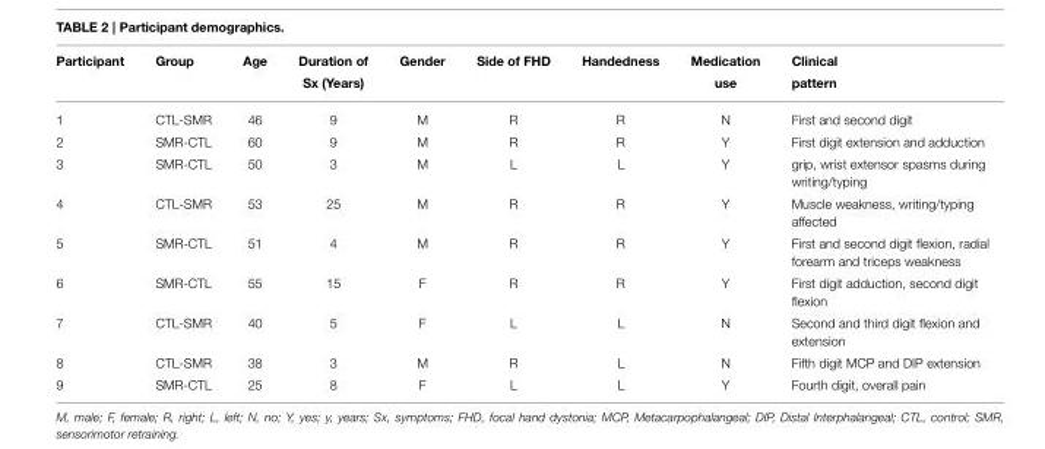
<table><thead><tr><td>Participant</td><td>Group</td><td>Age</td><td>Duration of Sx (Years)</td><td>Gender</td><td>Side of FHD</td><td>Handedness</td><td>Medication use</td><td>Clinical pattern</td></tr></thead><tbody><tr><td>1</td><td>CTL-SMR</td><td>46</td><td>9</td><td>M</td><td>R</td><td>R</td><td>N</td><td>First and second digit</td></tr><tr><td>2</td><td>SMR-CTL</td><td>60</td><td>9</td><td>M</td><td>R</td><td>R</td><td>Y</td><td>First digit extension and adduction</td></tr><tr><td>3</td><td>SMR-CTL</td><td>50</td><td>3</td><td>M</td><td>L</td><td>L</td><td>Y</td><td>grip, wrist extensor spasms during writing/typing</td></tr><tr><td>4</td><td>CTL-SMR</td><td>53</td><td>25</td><td>M</td><td>R</td><td>R</td><td>Y</td><td>Muscle weakness, writing/typing affected</td></tr><tr><td>5</td><td>SMR-CTL</td><td>51</td><td>4</td><td>M</td><td>R</td><td>R</td><td>Y</td><td>First and second digit flexion, radial forearm and triceps weakness</td></tr><tr><td>6</td><td>SMR-CTL</td><td>55</td><td>15</td><td>F</td><td>R</td><td>R</td><td>Y</td><td>First digit adduction, second digit flexion</td></tr><tr><td>7</td><td>CTL-SMR</td><td>40</td><td>5</td><td>F</td><td>L</td><td>L</td><td>N</td><td>Second and third digit flexion and extension</td></tr><tr><td>8</td><td>CTL-SMR</td><td>38</td><td>3</td><td>M</td><td>R</td><td>L</td><td>N</td><td>Fifth digit MCP and DIP extension</td></tr><tr><td>9</td><td>SMR-CTL</td><td>25</td><td>8</td><td>F</td><td>L</td><td>L</td><td>Y</td><td>Fourth digit, overall pain</td></tr></tbody></table>